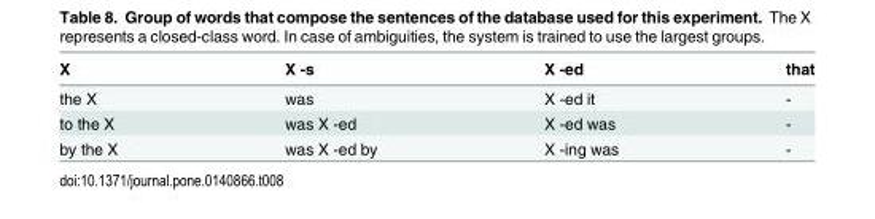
<table><thead><tr><td>X</td><td>X -s</td><td>X -ed</td><td>that</td></tr></thead><tbody><tr><td>the X</td><td>was</td><td>X -ed it</td><td>-</td></tr><tr><td>to the X</td><td>was X -ed</td><td>X -ed was</td><td>-</td></tr><tr><td>by the X</td><td>was X -ed by</td><td>X -ing was</td><td>-</td></tr></tbody></table>